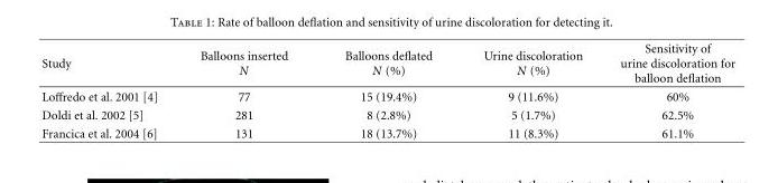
<table><thead><tr><td>Study</td><td>Balloons inserted N</td><td>Balloons deflated N (%)</td><td>Urine discoloration N (%)</td><td>Sensitivity of urine discoloration for balloon deflation</td></tr></thead><tbody><tr><td>Loffredo et al. 2001 [4]</td><td>77</td><td>15 (19.4%)</td><td>9 (11.6%)</td><td>60%</td></tr><tr><td>Doldi et al. 2002 [5]</td><td>281</td><td>8 (2.8%)</td><td>5 (1.7%)</td><td>62.5%</td></tr><tr><td>Francica et al. 2004 [6]</td><td>131</td><td>18 (13.7%)</td><td>11 (8.3%)</td><td>61.1%</td></tr></tbody></table>